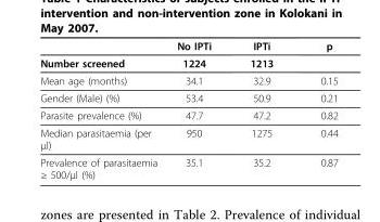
<table><thead><tr><td></td><td>No IPTi</td><td>IPTi</td><td>p</td></tr></thead><tbody><tr><td>Number screened</td><td>1224</td><td>1213</td><td></td></tr><tr><td>Mean age (months)</td><td>34.1</td><td>32.9</td><td>0.15</td></tr><tr><td>Gender (Male) (%)</td><td>53.4</td><td>50.9</td><td>0.21</td></tr><tr><td>Parasite prevalence (%)</td><td>47.7</td><td>47.2</td><td>0.82</td></tr><tr><td>Median parasitaemia (per μl)</td><td>950</td><td>1275</td><td>0.44</td></tr><tr><td>Prevalence of parasitaemia ≥ 500/μl (%)</td><td>35.1</td><td>35.2</td><td>0.87</td></tr></tbody></table>